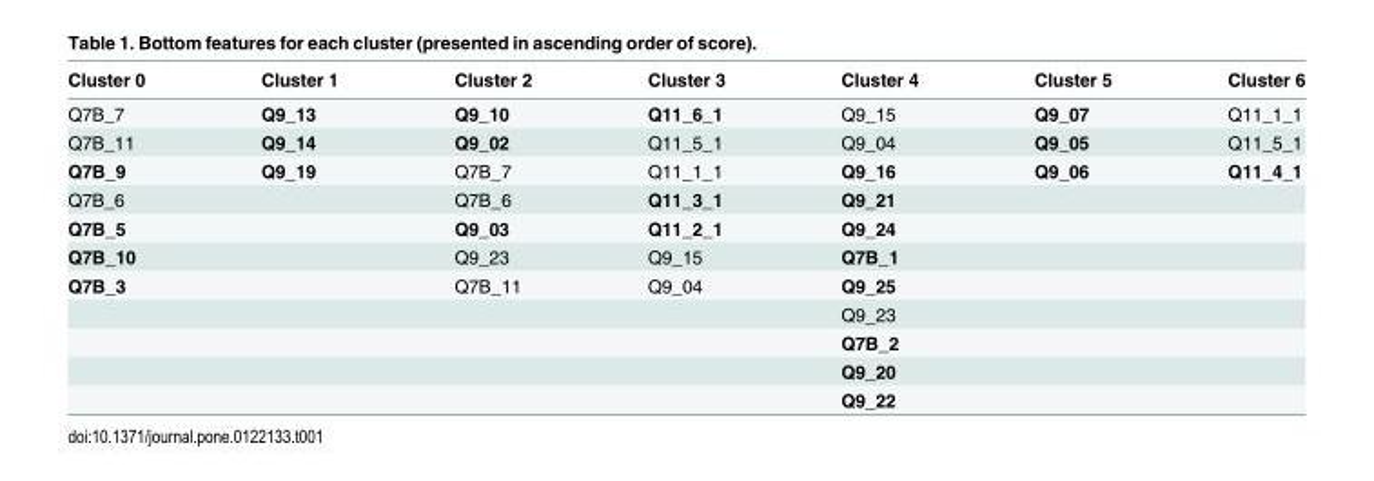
<table><thead><tr><td>Cluster 0</td><td>Cluster 1</td><td>Cluster 2</td><td>Cluster 3</td><td>Cluster 4</td><td>Cluster 5</td><td>Cluster 6</td></tr></thead><tbody><tr><td>Q7B_7</td><td>Q9_13</td><td>Q9_10</td><td>Q11_6_1</td><td>Q9_15</td><td>Q9_07</td><td>Q11_1_1</td></tr><tr><td>Q7B_11</td><td>Q9_14</td><td>Q9_02</td><td>Q11_5_1</td><td>Q9_04</td><td>Q9_05</td><td>Q11_5_1</td></tr><tr><td>Q7B_9</td><td>Q9_19</td><td>Q7B_7</td><td>Q11_1_1</td><td>Q9_16</td><td>Q9_06</td><td>Q11_4_1</td></tr><tr><td>Q7B_6</td><td></td><td>Q7B_6</td><td>Q11_3_1</td><td>Q9_21</td><td></td><td></td></tr><tr><td>Q7B_5</td><td></td><td>Q9_03</td><td>Q11_2_1</td><td>Q9_24</td><td></td><td></td></tr><tr><td>Q7B_10</td><td></td><td>Q9_23</td><td>Q9_15</td><td>Q7B_1</td><td></td><td></td></tr><tr><td rowspan="5">Q7B_3</td><td></td><td>Q7B_11</td><td>Q9_04</td><td>Q9_25</td><td></td><td></td></tr><tr><td></td><td></td><td></td><td>Q9_23</td><td></td><td></td></tr><tr><td></td><td></td><td></td><td>Q7B_2</td><td></td><td></td></tr><tr><td></td><td></td><td></td><td>Q9_20</td><td></td><td></td></tr><tr><td></td><td></td><td></td><td>Q9_22</td><td></td><td></td></tr></tbody></table>